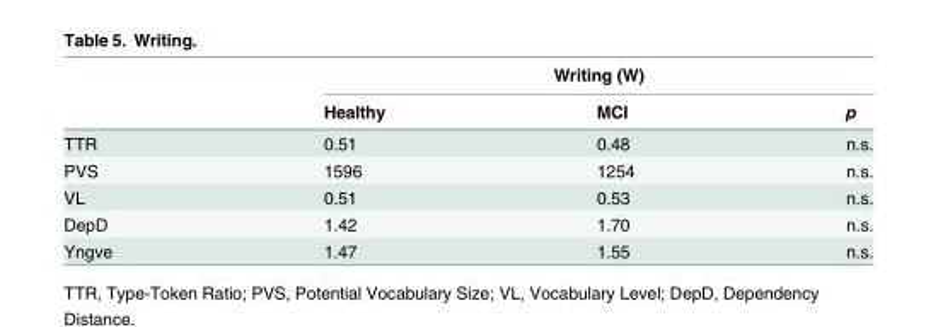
<table><thead><tr><td rowspan="2"></td><td colspan="3">Writing (W)</td></tr><tr><td>Healthy</td><td>MCI</td><td>p</td></tr></thead><tbody><tr><td>TTR</td><td>0.51</td><td>0.48</td><td>n.s.</td></tr><tr><td>PVS</td><td>1596</td><td>1254</td><td>n.s.</td></tr><tr><td>VL</td><td>0.51</td><td>0.53</td><td>n.s.</td></tr><tr><td>DepD</td><td>1.42</td><td>1.70</td><td>n.s.</td></tr><tr><td>Yngve</td><td>1.47</td><td>1.55</td><td>n.s.</td></tr></tbody></table>